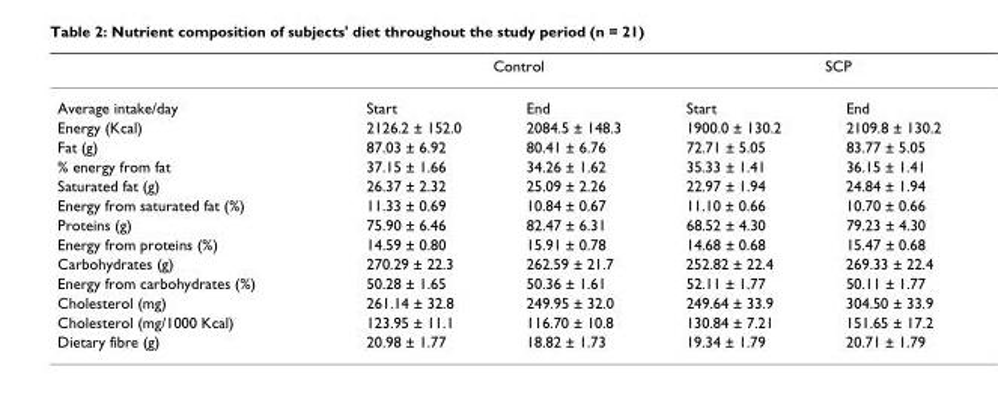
<table><thead><tr><td rowspan="2">Average intake/day</td><td colspan="2">Control</td><td colspan="2">SCP</td></tr><tr><td>Start</td><td>End</td><td>Start</td><td>End</td></tr></thead><tbody><tr><td>Energy (Kcal)</td><td>2126.2 ± 152.0</td><td>2084.5 ± 148.3</td><td>1900.0 ± 130.2</td><td>2109.8 ± 130.2</td></tr><tr><td>Fat (g)</td><td>87.03 ± 6.92</td><td>80.41 ± 6.76</td><td>72.71 ± 5.05</td><td>83.77 ± 5.05</td></tr><tr><td>% energy from fat</td><td>37.15 ± 1.66</td><td>34.26 ± 1.62</td><td>35.33 ± 1.41</td><td>36.15 ± 1.41</td></tr><tr><td>Saturated fat (g)</td><td>26.37 ± 2.32</td><td>25.09 ± 2.26</td><td>22.97 ± 1.94</td><td>24.84 ± 1.94</td></tr><tr><td>Energy from saturated fat (%)</td><td>11.33 ± 0.69</td><td>10.84 ± 0.67</td><td>11.10 ± 0.66</td><td>10.70 ± 0.66</td></tr><tr><td>Proteins (g)</td><td>75.90 ± 6.46</td><td>82.47 ± 6.31</td><td>68.52 ± 4.30</td><td>79.23 ± 4.30</td></tr><tr><td>Energy from proteins (%)</td><td>14.59 ± 0.80</td><td>15.91 ± 0.78</td><td>14.68 ± 0.68</td><td>15.47 ± 0.68</td></tr><tr><td>Carbohydrates (g)</td><td>270.29 ± 22.3</td><td>262.59 ± 21.7</td><td>252.82 ± 22.4</td><td>269.33 ± 22.4</td></tr><tr><td>Energy from carbohydrates (%)</td><td>50.28 ± 1.65</td><td>50.36 ± 1.61</td><td>52.11 ± 1.77</td><td>50.11 ± 1.77</td></tr><tr><td>Cholesterol (mg)</td><td>261.14 ± 32.8</td><td>249.95 ± 32.0</td><td>249.64 ± 33.9</td><td>304.50 ± 33.9</td></tr><tr><td>Cholesterol (mg/1000 Kcal)</td><td>123.95 ± 11.1</td><td>116.70 ± 10.8</td><td>130.84 ± 7.21</td><td>151.65 ± 17.2</td></tr><tr><td>Dietary fibre (g)</td><td>20.98 ± 1.77</td><td>18.82 ± 1.73</td><td>19.34 ± 1.79</td><td>20.71 ± 1.79</td></tr></tbody></table>